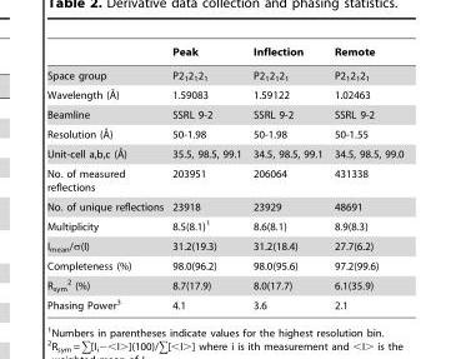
<table><thead><tr><td></td><td>Peak</td><td>Inflection</td><td>Remote</td></tr></thead><tbody><tr><td>Space group</td><td>P2<sub>1</sub>2<sub>1</sub>2<sub>1</sub></td><td>P2<sub>1</sub>2<sub>1</sub>2<sub>1</sub></td><td>P2<sub>1</sub>2<sub>1</sub>2<sub>1</sub></td></tr><tr><td>Wavelength (A˚)</td><td>1.59083</td><td>1.59122</td><td>1.02463</td></tr><tr><td>Beamline</td><td>SSRL 9-2</td><td>SSRL 9-2</td><td>SSRL 9-2</td></tr><tr><td>Resolution (A˚)</td><td>50-1.98</td><td>50-1.98</td><td>50-1.55</td></tr><tr><td>Unit-cell a,b,c (A˚)</td><td>35.5, 98.5, 99.1</td><td>34.5, 98.5, 99.1</td><td>34.5, 98.5, 99.0</td></tr><tr><td>No. of measured reflections</td><td>203951</td><td>206064</td><td>431338</td></tr><tr><td>No. of unique reflections</td><td>23918</td><td>23929</td><td>48691</td></tr><tr><td>Multiplicity</td><td>8.5(8.1)<sup>1</sup></td><td>8.6(8.1)</td><td>8.9(8.3)</td></tr><tr><td>I<sub>mean</sub>/σ(I)</td><td>31.2(19.3)</td><td>31.2(18.4)</td><td>27.7(6.2)</td></tr><tr><td>Completeness (%)</td><td>98.0(96.2)</td><td>98.0(95.6)</td><td>97.2(99.6)</td></tr><tr><td>R<sub>sym</sub> 2 (%)</td><td>8.7(17.9)</td><td>8.0(17.7)</td><td>6.1(35.9)</td></tr><tr><td>Phasing Power<sup>3</sup></td><td>4.1</td><td>3.6</td><td>2.1</td></tr></tbody></table>